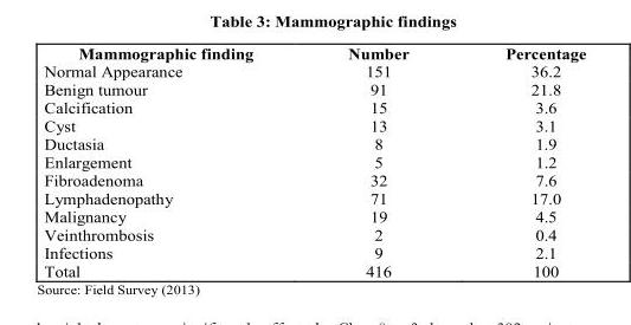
<table><thead><tr><td>Mammographic finding</td><td>Number</td><td>Percentage</td></tr></thead><tbody><tr><td>Normal Appearance</td><td>151</td><td>36.2</td></tr><tr><td>Benign tumour</td><td>91</td><td>21.8</td></tr><tr><td>Calcification</td><td>15</td><td>3.6</td></tr><tr><td>Cyst</td><td>13</td><td>3.1</td></tr><tr><td>Ductasia</td><td>8</td><td>1.9</td></tr><tr><td>Enlargement</td><td>5</td><td>1.2</td></tr><tr><td>Fibroadenoma</td><td>32</td><td>7.6</td></tr><tr><td>Lymphadenopathy</td><td>71</td><td>17.0</td></tr><tr><td>Malignancy</td><td>19</td><td>4.5</td></tr><tr><td>Veinthrombosis</td><td>2</td><td>0.4</td></tr><tr><td>Infections</td><td>9</td><td>2.1</td></tr><tr><td>Total</td><td>416</td><td>100</td></tr></tbody></table>